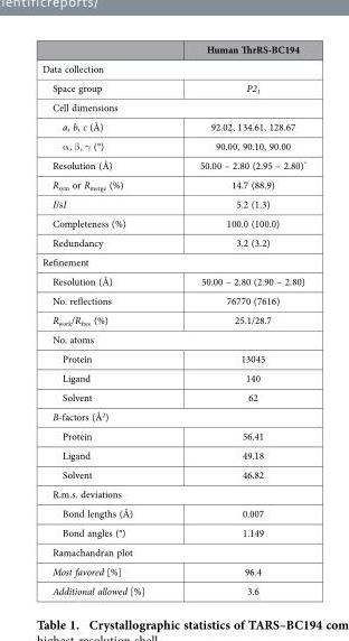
<table><thead><tr><td></td><td>Human ThrRS-BC194</td></tr></thead><tbody><tr><td colspan="2">Data collection</td></tr><tr><td>Space group</td><td>P2<sub>1</sub></td></tr><tr><td colspan="2">Cell dimensions</td></tr><tr><td>a, b, c (Å)</td><td>92.02, 134.61, 128.67</td></tr><tr><td>α , β , γ (°)</td><td>90.00, 90.10, 90.00</td></tr><tr><td>Resolution (Å)</td><td>50.00 – 2.80 (2.95 – 2.80)*</td></tr><tr><td>R<sub>sym</sub> or R<sub>merge</sub> (%)</td><td>14.7 (88.9)</td></tr><tr><td>I/sI</td><td>5.2 (1.3)</td></tr><tr><td>Completeness (%)</td><td>100.0 (100.0)</td></tr><tr><td>Redundancy</td><td>3.2 (3.2)</td></tr><tr><td colspan="2">Refinement</td></tr><tr><td>Resolution (Å)</td><td>50.00 – 2.80 (2.90 – 2.80)</td></tr><tr><td>No. reflections</td><td>76770 (7616)</td></tr><tr><td>R<sub>work</sub>/R<sub>free</sub> (%)</td><td>25.1/28.7</td></tr><tr><td colspan="2">No. atoms</td></tr><tr><td>Protein</td><td>13045</td></tr><tr><td>Ligand</td><td>140</td></tr><tr><td>Solvent</td><td>62</td></tr><tr><td colspan="2">B-factors (Å<sup>2</sup>)</td></tr><tr><td>Protein</td><td>56.41</td></tr><tr><td>Ligand</td><td>49.18</td></tr><tr><td>Solvent</td><td>46.82</td></tr><tr><td colspan="2">R.m.s. deviations</td></tr><tr><td>Bond lengths (Å)</td><td>0.007</td></tr><tr><td>Bond angles (°)</td><td>1.149</td></tr><tr><td colspan="2">Ramachandran plot</td></tr><tr><td>Most favored [%]</td><td>96.4</td></tr><tr><td>Additional allowed [%]</td><td>3.6</td></tr></tbody></table>